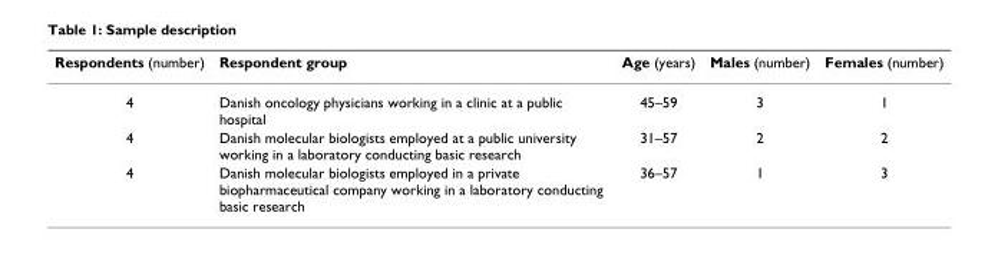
<table><thead><tr><td>Respondents (number)</td><td>Respondent group</td><td>Age (years)</td><td>Males (number)</td><td>Females (number)</td></tr></thead><tbody><tr><td>4</td><td>Danish oncology physicians working in a clinic at a public hospital</td><td>45–59</td><td>3</td><td>1</td></tr><tr><td>4</td><td>Danish molecular biologists employed at a public university working in a laboratory conducting basic research</td><td>31–57</td><td>2</td><td>2</td></tr><tr><td>4</td><td>Danish molecular biologists employed in a private biopharmaceutical company working in a laboratory conducting basic research</td><td>36–57</td><td>1</td><td>3</td></tr></tbody></table>